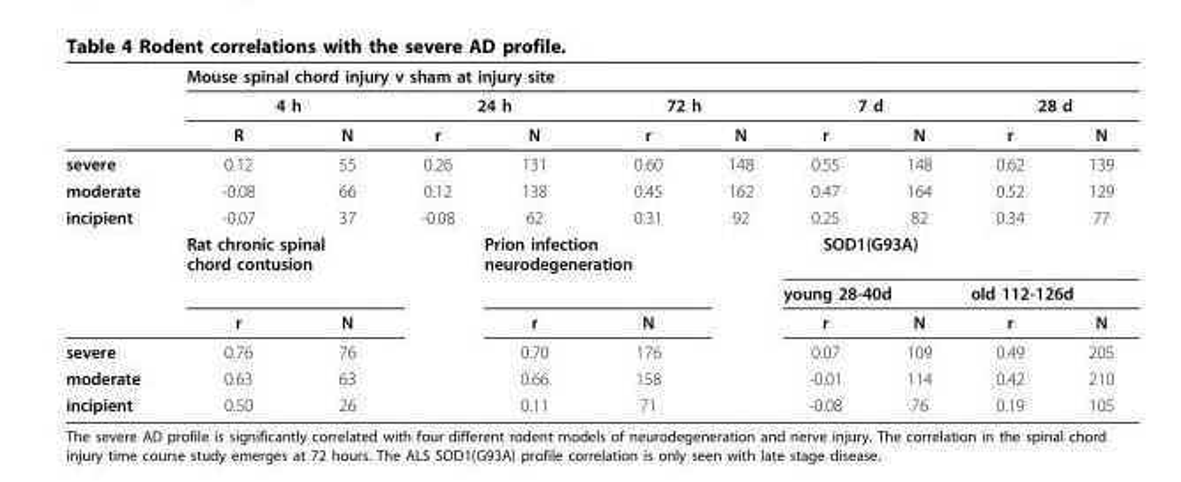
<table><thead><tr><td rowspan="3"></td><td colspan="10">Mouse spinal chord injury v sham at injury site</td></tr><tr><td colspan="2">4 h</td><td colspan="2">24 h</td><td colspan="2">72 h</td><td colspan="2">7 d</td><td colspan="2">28 d</td></tr><tr><td>R</td><td>N</td><td>r</td><td>N</td><td>r</td><td>N</td><td>r</td><td>N</td><td>r</td><td>N</td></tr></thead><tbody><tr><td>severe</td><td>0.12</td><td>55</td><td>0.26</td><td>131</td><td>0.60</td><td>148</td><td>0.55</td><td>148</td><td>0.62</td><td>139</td></tr><tr><td>moderate</td><td>-0.08</td><td>66</td><td>0.12</td><td>138</td><td>0.45</td><td>162</td><td>0.47</td><td>164</td><td>0.52</td><td>129</td></tr><tr><td rowspan="4">incipient</td><td>-0.07</td><td>37</td><td>-0.08</td><td>62</td><td>0.31</td><td>92</td><td>0.25</td><td>82</td><td>0.34</td><td>77</td></tr><tr><td colspan="2">Rat chronic spinal chord contusion</td><td></td><td colspan="2">Prion infection neurodegeneration</td><td></td><td colspan="2">SOD1(G93A)</td><td></td><td></td></tr><tr><td></td><td></td><td></td><td></td><td></td><td></td><td colspan="2">young 28-40d</td><td colspan="2">old 112-126d</td></tr><tr><td>r</td><td>N</td><td></td><td>r</td><td>N</td><td></td><td>r</td><td>N</td><td>r</td><td>N</td></tr><tr><td>severe</td><td>0.76</td><td>76</td><td></td><td>0.70</td><td>176</td><td></td><td>0.07</td><td>109</td><td>0.49</td><td>205</td></tr><tr><td>moderate</td><td>0.63</td><td>63</td><td></td><td>0.66</td><td>158</td><td></td><td>-0.01</td><td>114</td><td>0.42</td><td>210</td></tr><tr><td>incipient</td><td>0.50</td><td>26</td><td></td><td>0.11</td><td>71</td><td></td><td>-0.08</td><td>76</td><td>0.19</td><td>105</td></tr></tbody></table>